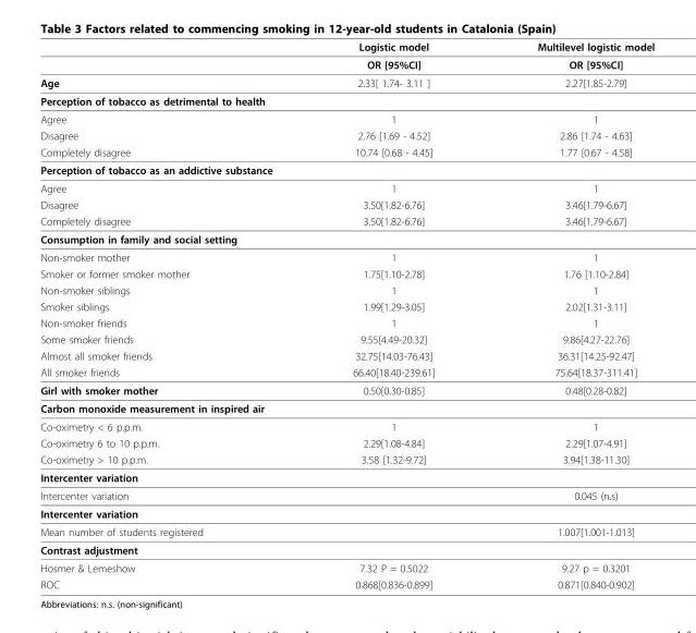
<table><thead><tr><td></td><td>Logistic model</td><td>Multilevel logistic model</td></tr></thead><tbody><tr><td></td><td>OR [95%CI]</td><td>OR [95%CI]</td></tr><tr><td>Age</td><td>2.33[ 1.74- 3.11 ]</td><td>2.27[1.85-2.79]</td></tr><tr><td colspan="3">Perception of tobacco as detrimental to health</td></tr><tr><td>Agree</td><td>1</td><td>1</td></tr><tr><td>Disagree</td><td>2.76 [1.69 - 4.52]</td><td>2.86 [1.74 - 4.63]</td></tr><tr><td>Completely disagree</td><td>10.74 [0.68 - 4.45]</td><td>1.77 [0.67 - 4.58]</td></tr><tr><td colspan="3">Perception of tobacco as an addictive substance</td></tr><tr><td>Agree</td><td>1</td><td>1</td></tr><tr><td>Disagree</td><td>3.50[1.82-6.76]</td><td>3.46[1.79-6.67]</td></tr><tr><td>Completely disagree</td><td>3.50[1.82-6.76]</td><td>3.46[1.79-6.67]</td></tr><tr><td colspan="3">Consumption in family and social setting</td></tr><tr><td>Non-smoker mother</td><td>1</td><td>1</td></tr><tr><td>Smoker or former smoker mother</td><td>1.75[1.10-2.78]</td><td>1.76 [1.10-2.84]</td></tr><tr><td>Non-smoker siblings</td><td>1</td><td>1</td></tr><tr><td>Smoker siblings</td><td>1.99[1.29-3.05]</td><td>2.02[1.31-3.11]</td></tr><tr><td>Non-smoker friends</td><td>1</td><td>1</td></tr><tr><td>Some smoker friends</td><td>9.55[4.49-20.32]</td><td>9.86[4.27-22.76]</td></tr><tr><td>Almost all smoker friends</td><td>32.75[14.03-76.43]</td><td>36.31[14.25-92.47]</td></tr><tr><td>All smoker friends</td><td>66.40[18.40-239.61]</td><td>75.64[18.37-311.41]</td></tr><tr><td>Girl with smoker mother</td><td>0.50[0.30-0.85]</td><td>0.48[0.28-0.82]</td></tr><tr><td colspan="3">Carbon monoxide measurement in inspired air</td></tr><tr><td>Co-oximetry &lt; 6 p.p.m.</td><td>1</td><td>1</td></tr><tr><td>Co-oximetry 6 to 10 p.p.m.</td><td>2.29[1.08-4.84]</td><td>2.29[1.07-4.91]</td></tr><tr><td>Co-oximetry &gt; 10 p.p.m.</td><td>3.58 [1.32-9.72]</td><td>3.94[1.38-11.30]</td></tr><tr><td colspan="3">Intercenter variation</td></tr><tr><td>Intercenter variation</td><td></td><td>0.045 (n.s)</td></tr><tr><td colspan="3">Intercenter variation</td></tr><tr><td>Mean number of students registered</td><td></td><td>1.007[1.001-1.013]</td></tr><tr><td colspan="3">Contrast adjustment</td></tr><tr><td>Hosmer &amp; Lemeshow</td><td>7.32 P = 0.5022</td><td>9.27 p = 0.3201</td></tr><tr><td>ROC</td><td>0.868[0.836-0.899]</td><td>0.871[0.840-0.902]</td></tr></tbody></table>